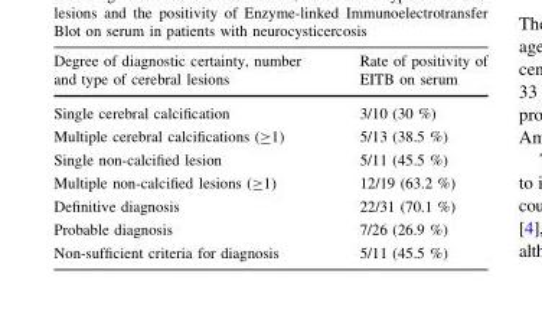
<table><thead><tr><td>Degree of diagnostic certainty, number and type of cerebral lesions</td><td>Rate of positivity of EITB on serum</td></tr></thead><tbody><tr><td>Single cerebral calcification</td><td>3/10 (30 %)</td></tr><tr><td>Multiple cerebral calcifications (≥1)</td><td>5/13 (38.5 %)</td></tr><tr><td>Single non-calcified lesion</td><td>5/11 (45.5 %)</td></tr><tr><td>Multiple non-calcified lesions (≥1)</td><td>12/19 (63.2 %)</td></tr><tr><td>Definitive diagnosis</td><td>22/31 (70.1 %)</td></tr><tr><td>Probable diagnosis</td><td>7/26 (26.9 %)</td></tr><tr><td>Non-sufficient criteria for diagnosis</td><td>5/11 (45.5 %)</td></tr></tbody></table>